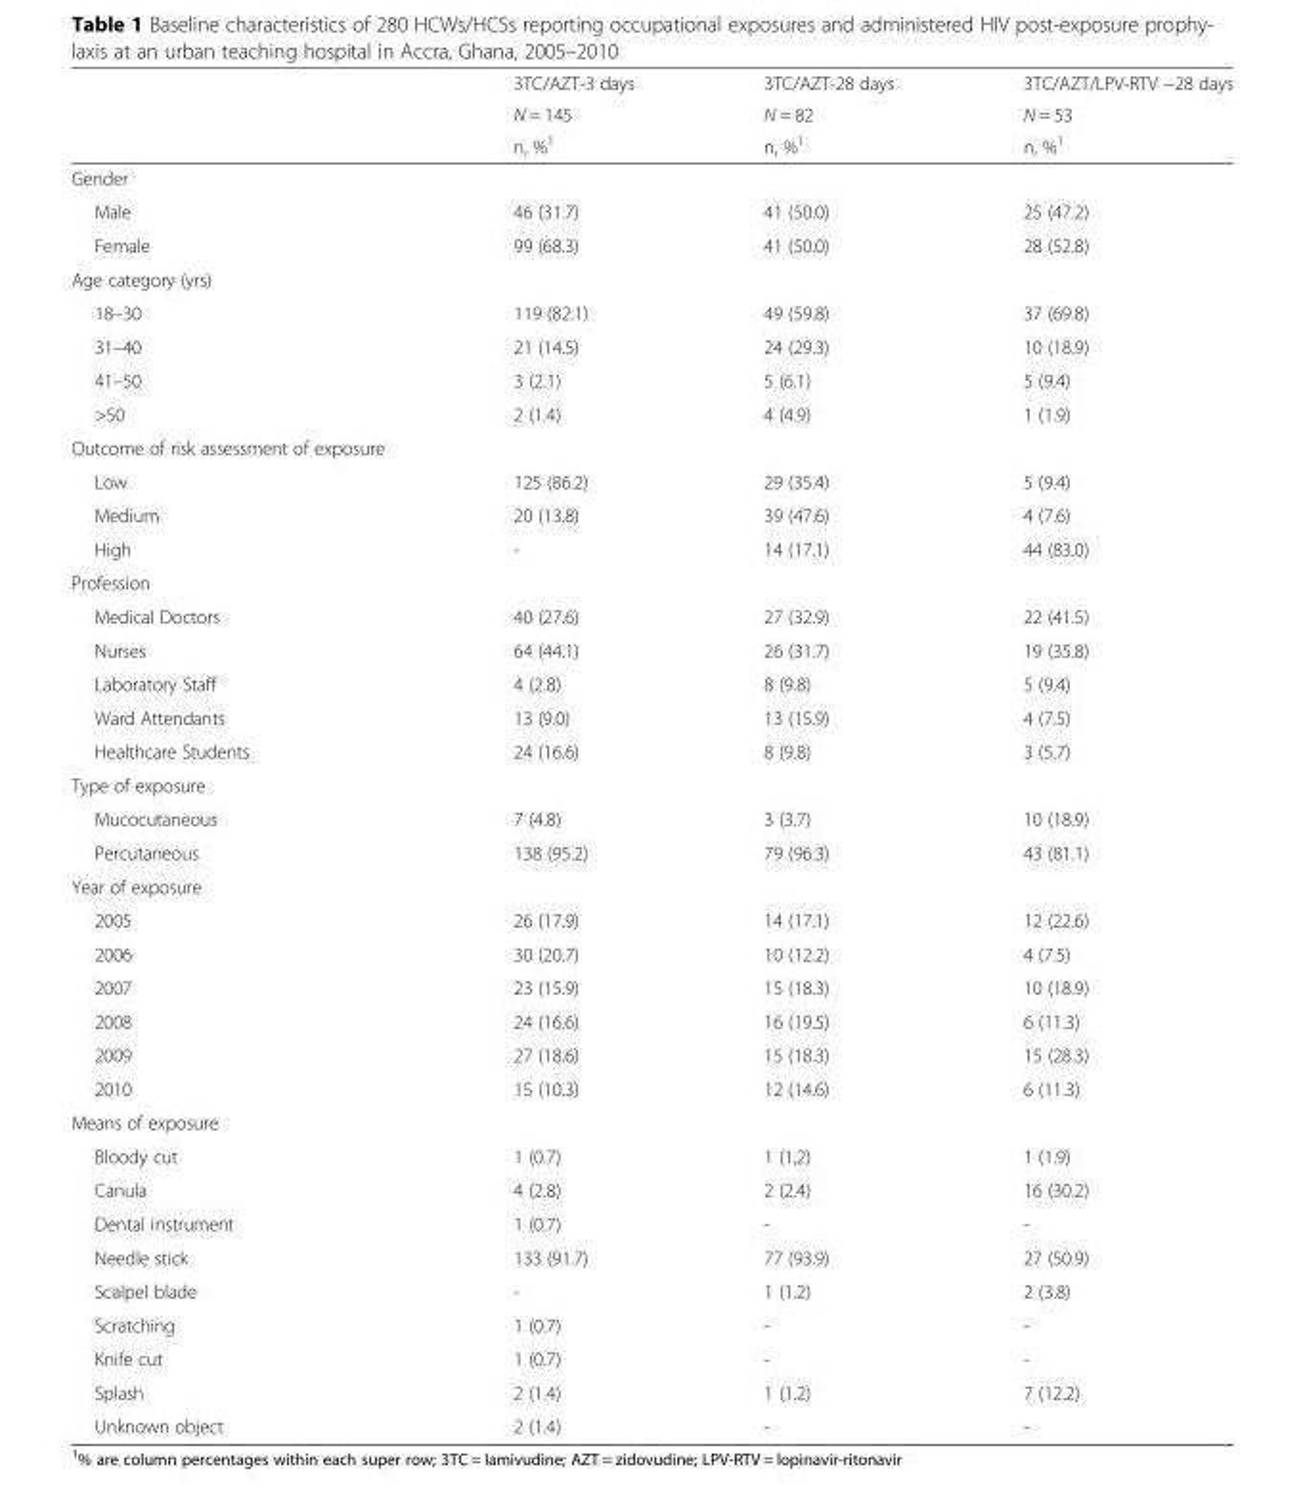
<table><thead><tr><td rowspan="3"></td><td rowspan="3">3TC/AZT-3 days N = 145 n, %<sup>1</sup></td><td rowspan="3">3TC/AZT-28 days N = 82 n, %<sup>1</sup></td><td rowspan="3">3TC/AZT/LPV-RTV −28 days N = 53 n, %<sup>1</sup></td></tr><tr></tr><tr></tr></thead><tbody><tr><td colspan="4">Gender</td></tr><tr><td>Male</td><td>46 (31.7)</td><td>41 (50.0)</td><td>25 (47.2)</td></tr><tr><td>Female</td><td>99 (68.3)</td><td>41 (50.0)</td><td>28 (52.8)</td></tr><tr><td colspan="4">Age category (yrs)</td></tr><tr><td>18–30</td><td>119 (82.1)</td><td>49 (59.8)</td><td>37 (69.8)</td></tr><tr><td>31–40</td><td>21 (14.5)</td><td>24 (29.3)</td><td>10 (18.9)</td></tr><tr><td>41–50</td><td>3 (2.1)</td><td>5 (6.1)</td><td>5 (9.4)</td></tr><tr><td>&gt;50</td><td>2 (1.4)</td><td>4 (4.9)</td><td>1 (1.9)</td></tr><tr><td colspan="4">Outcome of risk assessment of exposure</td></tr><tr><td>Low</td><td>125 (86.2)</td><td>29 (35.4)</td><td>5 (9.4)</td></tr><tr><td>Medium</td><td>20 (13.8)</td><td>39 (47.6)</td><td>4 (7.6)</td></tr><tr><td>High</td><td>-</td><td>14 (17.1)</td><td>44 (83.0)</td></tr><tr><td colspan="4">Profession</td></tr><tr><td>Medical Doctors</td><td>40 (27.6)</td><td>27 (32.9)</td><td>22 (41.5)</td></tr><tr><td>Nurses</td><td>64 (44.1)</td><td>26 (31.7)</td><td>19 (35.8)</td></tr><tr><td>Laboratory Staff</td><td>4 (2.8)</td><td>8 (9.8)</td><td>5 (9.4)</td></tr><tr><td>Ward Attendants</td><td>13 (9.0)</td><td>13 (15.9)</td><td>4 (7.5)</td></tr><tr><td>Healthcare Students</td><td>24 (16.6)</td><td>8 (9.8)</td><td>3 (5.7)</td></tr><tr><td colspan="4">Type of exposure</td></tr><tr><td>Mucocutaneous</td><td>7 (4.8)</td><td>3 (3.7)</td><td>10 (18.9)</td></tr><tr><td>Percutaneous</td><td>138 (95.2)</td><td>79 (96.3)</td><td>43 (81.1)</td></tr><tr><td colspan="4">Year of exposure</td></tr><tr><td>2005</td><td>26 (17.9)</td><td>14 (17.1)</td><td>12 (22.6)</td></tr><tr><td>2006</td><td>30 (20.7)</td><td>10 (12.2)</td><td>4 (7.5)</td></tr><tr><td>2007</td><td>23 (15.9)</td><td>15 (18.3)</td><td>10 (18.9)</td></tr><tr><td>2008</td><td>24 (16.6)</td><td>16 (19.5)</td><td>6 (11.3)</td></tr><tr><td>2009</td><td>27 (18.6)</td><td>15 (18.3)</td><td>15 (28.3)</td></tr><tr><td>2010</td><td>15 (10.3)</td><td>12 (14.6)</td><td>6 (11.3)</td></tr><tr><td colspan="4">Means of exposure</td></tr><tr><td>Bloody cut</td><td>1 (0.7)</td><td>1 (1,2)</td><td>1 (1.9)</td></tr><tr><td>Canula</td><td>4 (2.8)</td><td>2 (2.4)</td><td>16 (30.2)</td></tr><tr><td>Dental instrument</td><td>1 (0.7)</td><td>-</td><td>-</td></tr><tr><td>Needle stick</td><td>133 (91.7)</td><td>77 (93.9)</td><td>27 (50.9)</td></tr><tr><td>Scalpel blade</td><td>-</td><td>1 (1.2)</td><td>2 (3.8)</td></tr><tr><td>Scratching</td><td>1 (0.7)</td><td>-</td><td>-</td></tr><tr><td>Knife cut</td><td>1 (0.7)</td><td>-</td><td>-</td></tr><tr><td>Splash</td><td>2 (1.4)</td><td>1 (1.2)</td><td>7 (12.2)</td></tr><tr><td>Unknown object</td><td>2 (1.4)</td><td>-</td><td>-</td></tr></tbody></table>